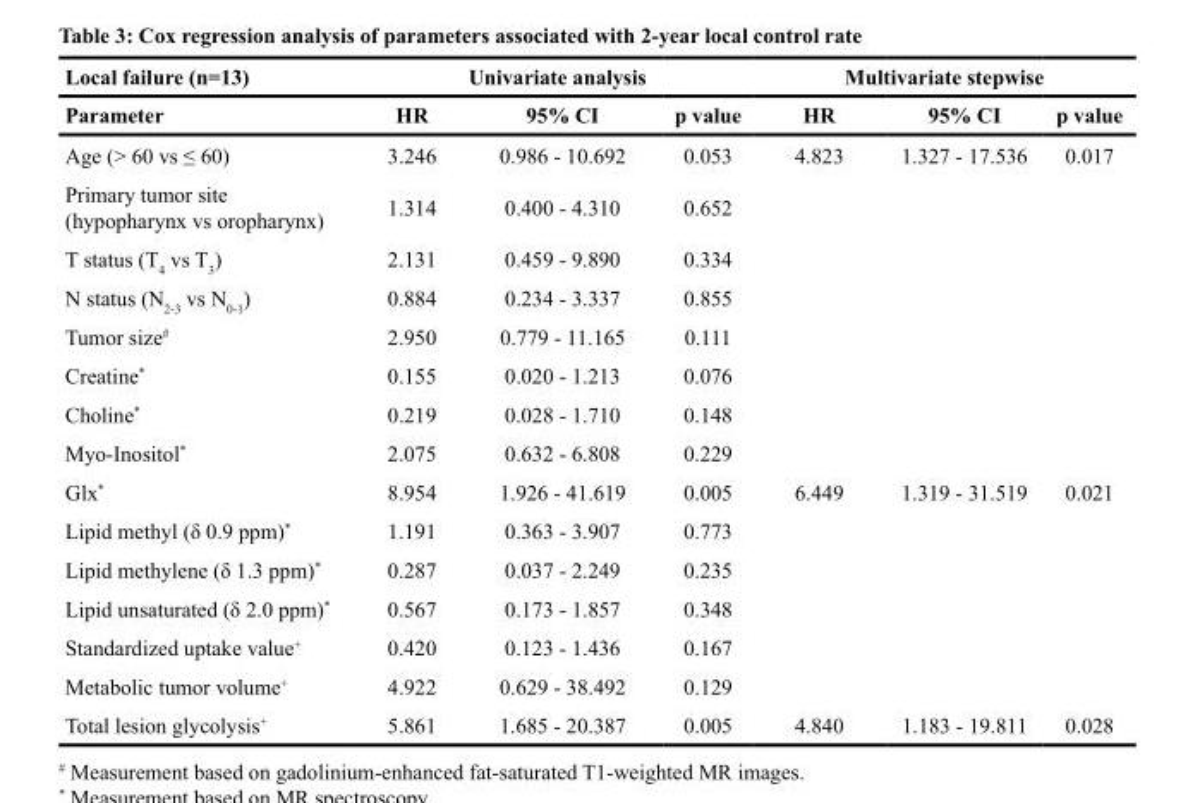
<table><thead><tr><td rowspan="2">Local failure (n=13) Parameter</td><td colspan="3">Univariate analysis</td><td colspan="3">Multivariate stepwise</td></tr><tr><td>HR</td><td>95% CI</td><td>p value</td><td>HR</td><td>95% CI</td><td>p value</td></tr></thead><tbody><tr><td>Age (&gt; 60 vs ≤ 60)</td><td>3.246</td><td>0.986 - 10.692</td><td>0.053</td><td>4.823</td><td>1.327 - 17.536</td><td>0.017</td></tr><tr><td>Primary tumor site (hypopharynx vs oropharynx)</td><td>1.314</td><td>0.400 - 4.310</td><td>0.652</td><td></td><td></td><td></td></tr><tr><td>T status (T<sub>4</sub> vs T<sub>3</sub>)</td><td>2.131</td><td>0.459 - 9.890</td><td>0.334</td><td></td><td></td><td></td></tr><tr><td>N status (N<sub>2-3</sub> vs N<sub>0-1</sub>)</td><td>0.884</td><td>0.234 - 3.337</td><td>0.855</td><td></td><td></td><td></td></tr><tr><td>Tumor size<sup>#</sup></td><td>2.950</td><td>0.779 - 11.165</td><td>0.111</td><td></td><td></td><td></td></tr><tr><td>Creatine*</td><td>0.155</td><td>0.020 - 1.213</td><td>0.076</td><td></td><td></td><td></td></tr><tr><td>Choline*</td><td>0.219</td><td>0.028 - 1.710</td><td>0.148</td><td></td><td></td><td></td></tr><tr><td>Myo-Inositol*</td><td>2.075</td><td>0.632 - 6.808</td><td>0.229</td><td></td><td></td><td></td></tr><tr><td>Glx*</td><td>8.954</td><td>1.926 - 41.619</td><td>0.005</td><td>6.449</td><td>1.319 - 31.519</td><td>0.021</td></tr><tr><td>Lipid methyl (δ 0.9 ppm)*</td><td>1.191</td><td>0.363 - 3.907</td><td>0.773</td><td></td><td></td><td></td></tr><tr><td>Lipid methylene (δ 1.3 ppm)*</td><td>0.287</td><td>0.037 - 2.249</td><td>0.235</td><td></td><td></td><td></td></tr><tr><td>Lipid unsaturated (δ 2.0 ppm)*</td><td>0.567</td><td>0.173 - 1.857</td><td>0.348</td><td></td><td></td><td></td></tr><tr><td>Standardized uptake value+</td><td>0.420</td><td>0.123 - 1.436</td><td>0.167</td><td></td><td></td><td></td></tr><tr><td>Metabolic tumor volume+</td><td>4.922</td><td>0.629 - 38.492</td><td>0.129</td><td></td><td></td><td></td></tr><tr><td>Total lesion glycolysis+</td><td>5.861</td><td>1.685 - 20.387</td><td>0.005</td><td>4.840</td><td>1.183 - 19.811</td><td>0.028</td></tr></tbody></table>